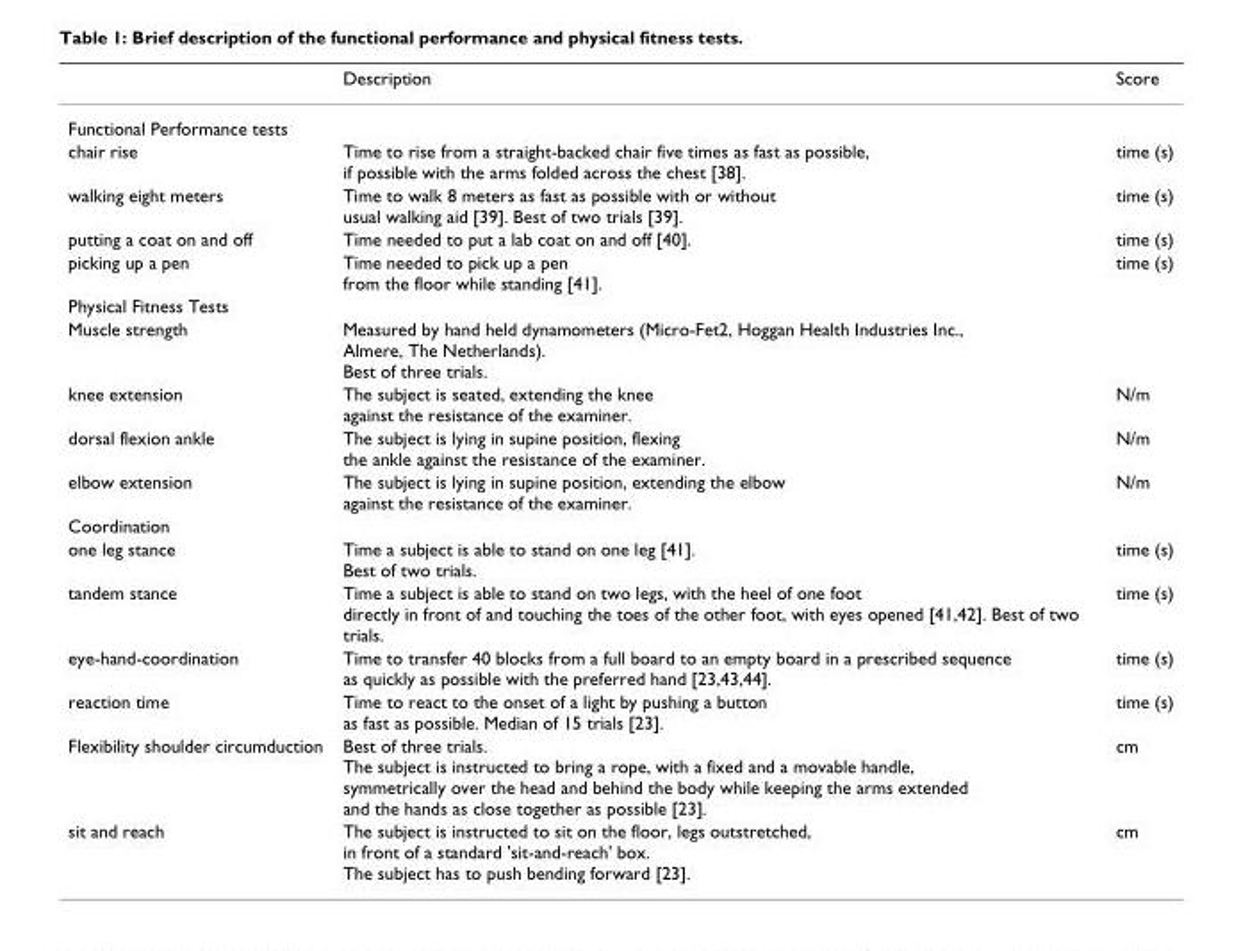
<table><thead><tr><td></td><td>Description</td><td>Score</td></tr></thead><tbody><tr><td colspan="3">Functional Performance tests</td></tr><tr><td>chair rise</td><td>Time to rise from a straight-backed chair five times as fast as possible, if possible with the arms folded across the chest [38].</td><td>time (s)</td></tr><tr><td>walking eight meters</td><td>Time to walk 8 meters as fast as possible with or without usual walking aid [39]. Best of two trials [39].</td><td>time (s)</td></tr><tr><td>putting a coat on and off</td><td>Time needed to put a lab coat on and off [40].</td><td>time (s)</td></tr><tr><td>picking up a pen</td><td>Time needed to pick up a pen from the floor while standing [41].</td><td>time (s)</td></tr><tr><td colspan="3">Physical Fitness Tests</td></tr><tr><td>Muscle strength</td><td>Measured by hand held dynamometers (Micro-Fet2, Hoggan Health Industries Inc., Almere, The Netherlands). Best of three trials.</td><td></td></tr><tr><td>knee extension</td><td>The subject is seated, extending the knee against the resistance of the examiner.</td><td>N/m</td></tr><tr><td>dorsal flexion ankle</td><td>The subject is lying in supine position, flexing the ankle against the resistance of the examiner.</td><td>N/m</td></tr><tr><td>elbow extension</td><td>The subject is lying in supine position, extending the elbow against the resistance of the examiner.</td><td>N/m</td></tr><tr><td colspan="3">Coordination</td></tr><tr><td>one leg stance</td><td>Time a subject is able to stand on one leg [41]. Best of two trials.</td><td>time (s)</td></tr><tr><td>tandem stance</td><td>Time a subject is able to stand on two legs, with the heel of one foot directly in front of and touching the toes of the other foot, with eyes opened [41,42]. Best of two trials.</td><td>time (s)</td></tr><tr><td>eye-hand-coordination</td><td>Time to transfer 40 blocks from a full board to an empty board in a prescribed sequence as quickly as possible with the preferred hand [23,43,44].</td><td>time (s)</td></tr><tr><td>reaction time</td><td>Time to react to the onset of a light by pushing a button as fast as possible. Median of 15 trials [23].</td><td>time (s)</td></tr><tr><td>Flexibility shoulder circumduction</td><td>Best of three trials. The subject is instructed to bring a rope, with a fixed and a movable handle, symmetrically over the head and behind the body while keeping the arms extended and the hands as close together as possible [23].</td><td>cm</td></tr><tr><td>sit and reach</td><td>The subject is instructed to sit on the floor, legs outstretched, in front of a standard &#x27;sit-and-reach&#x27; box. The subject has to push bending forward [23].</td><td>cm</td></tr></tbody></table>